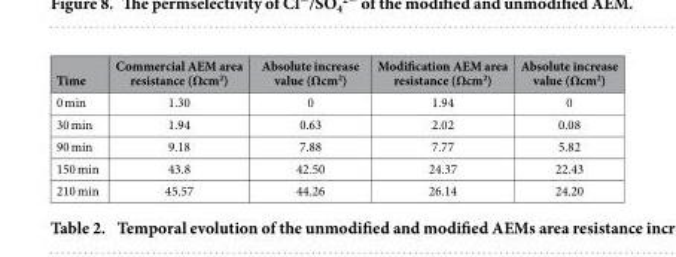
<table><thead><tr><td>Time</td><td>Commercial AEM area resistance (Ωcm<sup>2</sup>)</td><td>Absolute increase value (Ωcm<sup>2</sup>)</td><td>Modification AEM area resistance (Ωcm<sup>2</sup>)</td><td>Absolute increase value (Ωcm<sup>2</sup>)</td></tr></thead><tbody><tr><td>0 min</td><td>1.30</td><td>0</td><td>1.94</td><td>0</td></tr><tr><td>30 min</td><td>1.94</td><td>0.63</td><td>2.02</td><td>0.08</td></tr><tr><td>90 min</td><td>9.18</td><td>7.88</td><td>7.77</td><td>5.82</td></tr><tr><td>150 min</td><td>43.8</td><td>42.50</td><td>24.37</td><td>22.43</td></tr><tr><td>210 min</td><td>45.57</td><td>44.26</td><td>26.14</td><td>24.20</td></tr></tbody></table>